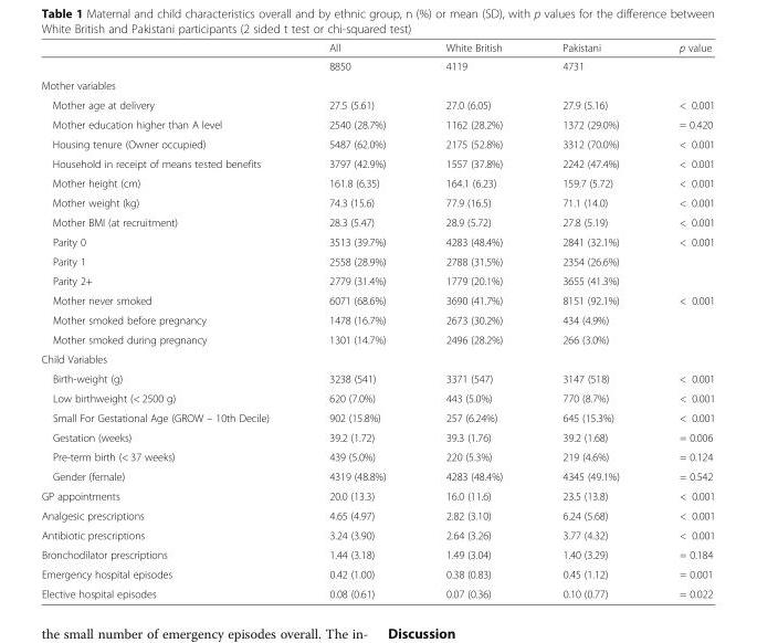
<table><thead><tr><td></td><td>All</td><td>White British</td><td>Pakistani</td><td>p value</td></tr></thead><tbody><tr><td></td><td>8850</td><td>4119</td><td>4731</td><td></td></tr><tr><td colspan="5">Mother variables</td></tr><tr><td>Mother age at delivery</td><td>27.5 (5.61)</td><td>27.0 (6.05)</td><td>27.9 (5.16)</td><td>&lt; 0.001</td></tr><tr><td>Mother education higher than A level</td><td>2540 (28.7%)</td><td>1162 (28.2%)</td><td>1372 (29.0%)</td><td>= 0.420</td></tr><tr><td>Housing tenure (Owner occupied)</td><td>5487 (62.0%)</td><td>2175 (52.8%)</td><td>3312 (70.0%)</td><td>&lt; 0.001</td></tr><tr><td>Household in receipt of means tested benefits</td><td>3797 (42.9%)</td><td>1557 (37.8%)</td><td>2242 (47.4%)</td><td>&lt; 0.001</td></tr><tr><td>Mother height (cm)</td><td>161.8 (6.35)</td><td>164.1 (6.23)</td><td>159.7 (5.72)</td><td>&lt; 0.001</td></tr><tr><td>Mother weight (kg)</td><td>74.3 (15.6)</td><td>77.9 (16.5)</td><td>71.1 (14.0)</td><td>&lt; 0.001</td></tr><tr><td>Mother BMI (at recruitment)</td><td>28.3 (5.47)</td><td>28.9 (5.72)</td><td>27.8 (5.19)</td><td>&lt; 0.001</td></tr><tr><td>Parity 0</td><td>3513 (39.7%)</td><td>4283 (48.4%)</td><td>2841 (32.1%)</td><td>&lt; 0.001</td></tr><tr><td>Parity 1</td><td>2558 (28.9%)</td><td>2788 (31.5%)</td><td>2354 (26.6%)</td><td></td></tr><tr><td>Parity 2+</td><td>2779 (31.4%)</td><td>1779 (20.1%)</td><td>3655 (41.3%)</td><td></td></tr><tr><td>Mother never smoked</td><td>6071 (68.6%)</td><td>3690 (41.7%)</td><td>8151 (92.1%)</td><td>&lt; 0.001</td></tr><tr><td>Mother smoked before pregnancy</td><td>1478 (16.7%)</td><td>2673 (30.2%)</td><td>434 (4.9%)</td><td></td></tr><tr><td>Mother smoked during pregnancy</td><td>1301 (14.7%)</td><td>2496 (28.2%)</td><td>266 (3.0%)</td><td></td></tr><tr><td colspan="5">Child Variables</td></tr><tr><td>Birth-weight (g)</td><td>3238 (541)</td><td>3371 (547)</td><td>3147 (518)</td><td>&lt; 0.001</td></tr><tr><td>Low birthweight (&lt; 2500 g)</td><td>620 (7.0%)</td><td>443 (5.0%)</td><td>770 (8.7%)</td><td>&lt; 0.001</td></tr><tr><td>Small For Gestational Age (GROW – 10th Decile)</td><td>902 (15.8%)</td><td>257 (6.24%)</td><td>645 (15.3%)</td><td>&lt; 0.001</td></tr><tr><td>Gestation (weeks)</td><td>39.2 (1.72)</td><td>39.3 (1.76)</td><td>39.2 (1.68)</td><td>= 0.006</td></tr><tr><td>Pre-term birth (&lt; 37 weeks)</td><td>439 (5.0%)</td><td>220 (5.3%)</td><td>219 (4.6%)</td><td>= 0.124</td></tr><tr><td>Gender (female)</td><td>4319 (48.8%)</td><td>4283 (48.4%)</td><td>4345 (49.1%)</td><td>= 0.542</td></tr><tr><td>GP appointments</td><td>20.0 (13.3)</td><td>16.0 (11.6)</td><td>23.5 (13.8)</td><td>&lt; 0.001</td></tr><tr><td>Analgesic prescriptions</td><td>4.65 (4.97)</td><td>2.82 (3.10)</td><td>6.24 (5.68)</td><td>&lt; 0.001</td></tr><tr><td>Antibiotic prescriptions</td><td>3.24 (3.90)</td><td>2.64 (3.26)</td><td>3.77 (4.32)</td><td>&lt; 0.001</td></tr><tr><td>Bronchodilator prescriptions</td><td>1.44 (3.18)</td><td>1.49 (3.04)</td><td>1.40 (3.29)</td><td>= 0.184</td></tr><tr><td>Emergency hospital episodes</td><td>0.42 (1.00)</td><td>0.38 (0.83)</td><td>0.45 (1.12)</td><td>= 0.001</td></tr><tr><td>Elective hospital episodes</td><td>0.08 (0.61)</td><td>0.07 (0.36)</td><td>0.10 (0.77)</td><td>= 0.022</td></tr></tbody></table>